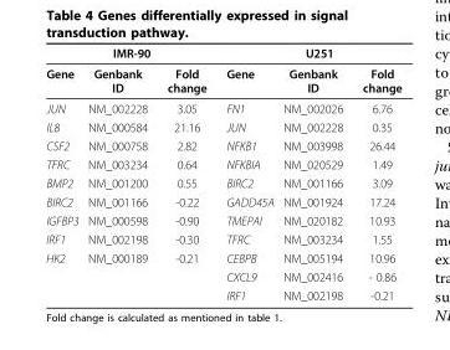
<table><thead><tr><td colspan="3">IMR-90</td><td colspan="3">U251</td></tr><tr><td>Gene</td><td>Genbank ID</td><td>Fold change</td><td>Gene</td><td>Genbank ID</td><td>Fold change</td></tr></thead><tbody><tr><td>JUN</td><td>NM_002228</td><td>3.05</td><td>FN1</td><td>NM_002026</td><td>6.76</td></tr><tr><td>IL8</td><td>NM_000584</td><td>21.16</td><td>JUN</td><td>NM_002228</td><td>0.35</td></tr><tr><td>CSF2</td><td>NM_000758</td><td>2.82</td><td>NFKB1</td><td>NM_003998</td><td>26.44</td></tr><tr><td>TFRC</td><td>NM_003234</td><td>0.64</td><td>NFKBIA</td><td>NM_020529</td><td>1.49</td></tr><tr><td>BMP2</td><td>NM_001200</td><td>0.55</td><td>BIRC2</td><td>NM_001166</td><td>3.09</td></tr><tr><td>BIRC2</td><td>NM_001166</td><td>-0.22</td><td>GADD45A</td><td>NM_001924</td><td>17.24</td></tr><tr><td>IGFBP3</td><td>NM_000598</td><td>-0.90</td><td>TMEPAI</td><td>NM_020182</td><td>10.93</td></tr><tr><td>IRF1</td><td>NM_002198</td><td>-0.30</td><td>TFRC</td><td>NM_003234</td><td>1.55</td></tr><tr><td rowspan="3">HK2</td><td>NM_000189</td><td>-0.21</td><td>CEBPB</td><td>NM_005194</td><td>10.96</td></tr><tr><td></td><td></td><td>CXCL9</td><td>NM_002416</td><td>- 0.86</td></tr><tr><td></td><td></td><td>IRF1</td><td>NM_002198</td><td>-0.21</td></tr></tbody></table>